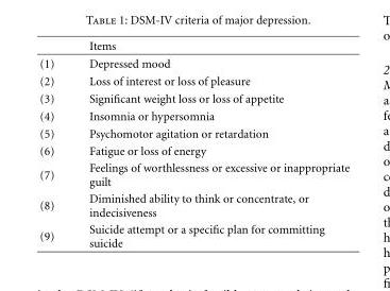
<table><thead><tr><td></td><td>Items</td></tr></thead><tbody><tr><td>(1)</td><td>Depressed mood</td></tr><tr><td>(2)</td><td>Loss of interest or loss of pleasure</td></tr><tr><td>(3)</td><td>Significant weight loss or loss of appetite</td></tr><tr><td>(4)</td><td>Insomnia or hypersomnia</td></tr><tr><td>(5)</td><td>Psychomotor agitation or retardation</td></tr><tr><td>(6)</td><td>Fatigue or loss of energy</td></tr><tr><td>(7)</td><td>Feelings of worthlessness or excessive or inappropriate guilt</td></tr><tr><td>(8)</td><td>Diminished ability to think or concentrate, or indecisiveness</td></tr><tr><td>(9)</td><td>Suicide attempt or a specific plan for committing suicide</td></tr></tbody></table>